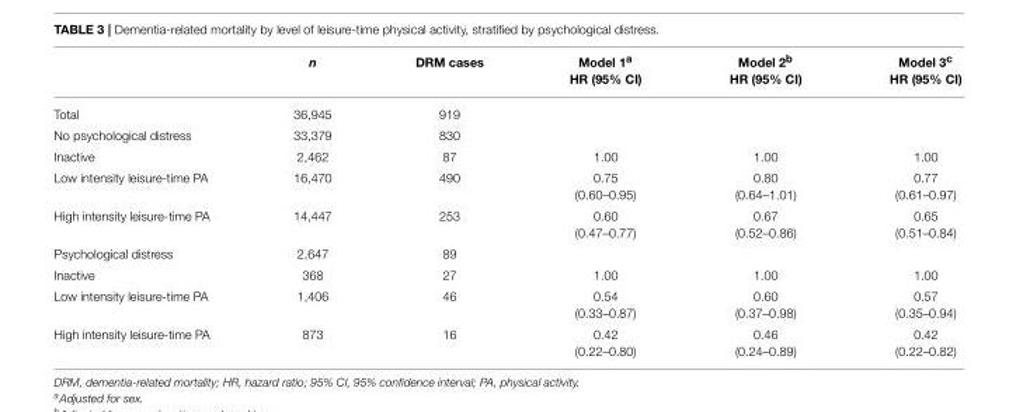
<table><thead><tr><td></td><td>n</td><td>DRM cases</td><td>Model 1<sup>a</sup> HR (95% CI)</td><td>Model 2<sup>b</sup> HR (95% CI)</td><td>Model 3<sup>c</sup> HR (95% CI)</td></tr></thead><tbody><tr><td>Total</td><td>36,945</td><td>919</td><td></td><td></td><td></td></tr><tr><td>No psychological distress</td><td>33,379</td><td>830</td><td></td><td></td><td></td></tr><tr><td>Inactive</td><td>2,462</td><td>87</td><td>1.00</td><td>1.00</td><td>1.00</td></tr><tr><td>Low intensity leisure-time PA</td><td>16,470</td><td>490</td><td>0.75 (0.60–0.95)</td><td>0.80 (0.64–1.01)</td><td>0.77 (0.61–0.97)</td></tr><tr><td>High intensity leisure-time PA</td><td>14,447</td><td>253</td><td>0.60 (0.47–0.77)</td><td>0.67 (0.52–0.86)</td><td>0.65 (0.51–0.84)</td></tr><tr><td>Psychological distress</td><td>2,647</td><td>89</td><td></td><td></td><td></td></tr><tr><td>Inactive</td><td>368</td><td>27</td><td>1.00</td><td>1.00</td><td>1.00</td></tr><tr><td>Low intensity leisure-time PA</td><td>1,406</td><td>46</td><td>0.54 (0.33–0.87)</td><td>0.60 (0.37–0.98)</td><td>0.57 (0.35–0.94)</td></tr><tr><td>High intensity leisure-time PA</td><td>873</td><td>16</td><td>0.42 (0.22–0.80)</td><td>0.46 (0.24–0.89)</td><td>0.42 (0.22–0.82)</td></tr></tbody></table>